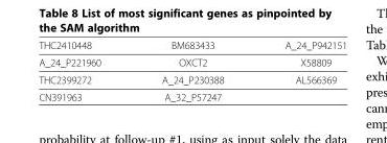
<table><thead><tr><td>THC2410448</td><td>BM683433</td><td>A_24_P942151</td></tr></thead><tbody><tr><td>A_24_P221960</td><td>OXCT2</td><td>X58809</td></tr><tr><td>THC2399272</td><td>A_24_P230388</td><td>AL566369</td></tr><tr><td>CN391963</td><td>A_32_P57247</td><td></td></tr></tbody></table>